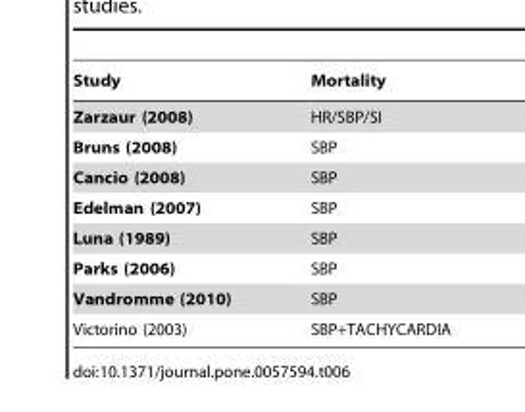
<table><thead><tr><td>Study</td><td>Mortality</td></tr></thead><tbody><tr><td>Zarzaur (2008)</td><td>HR/SBP/SI</td></tr><tr><td>Bruns (2008)</td><td>SBP</td></tr><tr><td>Cancio (2008)</td><td>SBP</td></tr><tr><td>Edelman (2007)</td><td>SBP</td></tr><tr><td>Luna (1989)</td><td>SBP</td></tr><tr><td>Parks (2006)</td><td>SBP</td></tr><tr><td>Vandromme (2010)</td><td>SBP</td></tr><tr><td>Victorino (2003)</td><td>SBP+TACHYCARDIA</td></tr></tbody></table>